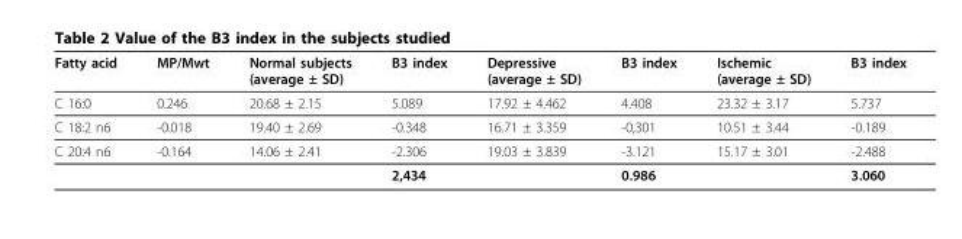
<table><thead><tr><td>Fatty acid</td><td>MP/Mwt</td><td>Normal subjects (average ± SD)</td><td>B3 index</td><td>Depressive (average ± SD)</td><td>B3 index</td><td>Ischemic (average ± SD)</td><td>B3 index</td></tr></thead><tbody><tr><td>C 16:0</td><td>0.246</td><td>20.68 ± 2.15</td><td>5.089</td><td>17.92 ± 4.462</td><td>4.408</td><td>23.32 ± 3.17</td><td>5.737</td></tr><tr><td>C 18:2 n6</td><td>-0.018</td><td>19.40 ± 2.69</td><td>-0.348</td><td>16.71 ± 3.359</td><td>-0,301</td><td>10.51 ± 3.44</td><td>-0.189</td></tr><tr><td rowspan="2">C 20:4 n6</td><td>-0.164</td><td>14.06 ± 2.41</td><td>-2.306</td><td>19.03 ± 3.839</td><td>-3.121</td><td>15.17 ± 3.01</td><td>-2.488</td></tr><tr><td></td><td></td><td>2,434</td><td></td><td>0.986</td><td></td><td>3.060</td></tr></tbody></table>